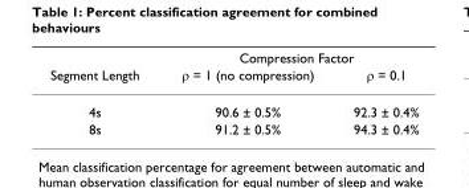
<table><thead><tr><td rowspan="2">Segment Length</td><td colspan="2">Compression Factor</td></tr><tr><td>ρ = 1 (no compression)</td><td>ρ = 0.1</td></tr></thead><tbody><tr><td>4s</td><td>90.6 ± 0.5%</td><td>92.3 ± 0.4%</td></tr><tr><td>8s</td><td>91.2 ± 0.5%</td><td>94.3 ± 0.4%</td></tr></tbody></table>